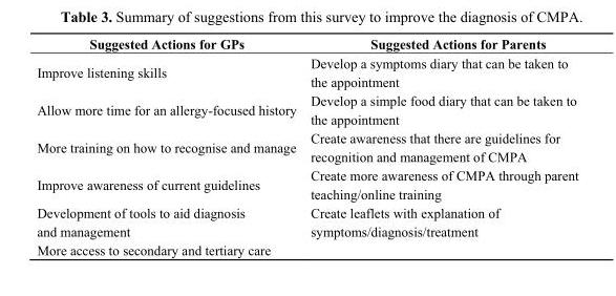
<table><thead><tr><td>Suggested Actions for GPs</td><td>Suggested Actions for Parents</td></tr></thead><tbody><tr><td>Improve listening skills</td><td>Develop a symptoms diary that can be taken to the appointment</td></tr><tr><td>Allow more time for an allergy-focused history</td><td>Develop a simple food diary that can be taken to the appointment</td></tr><tr><td>More training on how to recognise and manage</td><td>Create awareness that there are guidelines for recognition and management of CMPA</td></tr><tr><td>Improve awareness of current guidelines</td><td>Create more awareness of CMPA through parent teaching/online training</td></tr><tr><td>Development of tools to aid diagnosis and management</td><td>Create leaflets with explanation of symptoms/diagnosis/treatment</td></tr><tr><td>More access to secondary and tertiary care</td><td></td></tr></tbody></table>